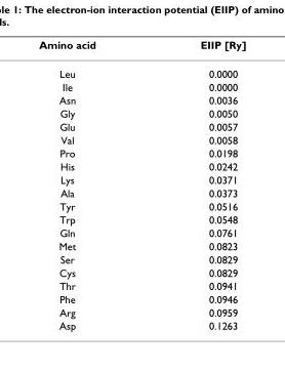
<table><thead><tr><td>Amino acid</td><td>EIIP [Ry]</td></tr></thead><tbody><tr><td>Leu</td><td>0.0000</td></tr><tr><td>Ile</td><td>0.0000</td></tr><tr><td>Asn</td><td>0.0036</td></tr><tr><td>Gly</td><td>0.0050</td></tr><tr><td>Glu</td><td>0.0057</td></tr><tr><td>Val</td><td>0.0058</td></tr><tr><td>Pro</td><td>0.0198</td></tr><tr><td>His</td><td>0.0242</td></tr><tr><td>Lys</td><td>0.0371</td></tr><tr><td>Ala</td><td>0.0373</td></tr><tr><td>Tyr</td><td>0.0516</td></tr><tr><td>Trp</td><td>0.0548</td></tr><tr><td>Gln</td><td>0.0761</td></tr><tr><td>Met</td><td>0.0823</td></tr><tr><td>Ser</td><td>0.0829</td></tr><tr><td>Cys</td><td>0.0829</td></tr><tr><td>Thr</td><td>0.0941</td></tr><tr><td>Phe</td><td>0.0946</td></tr><tr><td>Arg</td><td>0.0959</td></tr><tr><td>Asp</td><td>0.1263</td></tr></tbody></table>